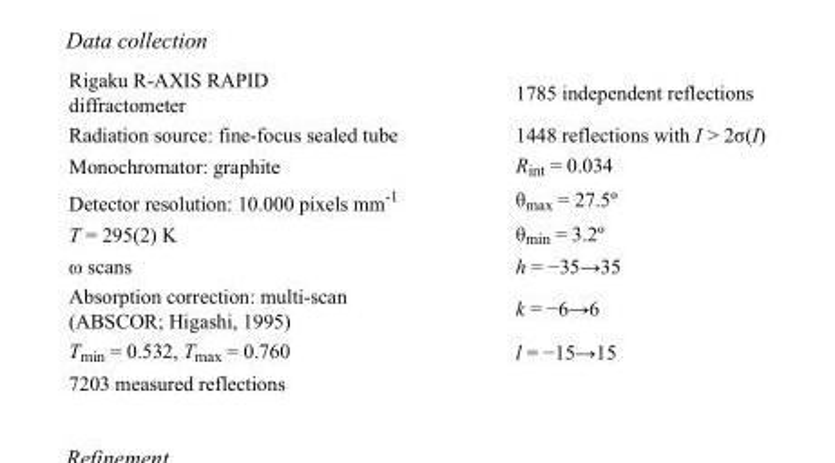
<table><tbody><tr><td>Rigaku R-AXIS RAPID diffractometer</td><td>1785 independent reflections</td></tr><tr><td>Radiation source: fine-focus sealed tube</td><td>1448 reflections with I &gt; 2σ(I)</td></tr><tr><td>Monochromator: graphite</td><td>R<sub>int</sub> = 0.034</td></tr><tr><td>Detector resolution: 10.000 pixels mm<sup>-1</sup></td><td>θ<sub>max</sub> = 27.5º</td></tr><tr><td>T = 295(2) K</td><td>θ<sub>min</sub> = 3.2º</td></tr><tr><td>ω scans</td><td>h = −35→35</td></tr><tr><td>Absorption correction: multi-scan (ABSCOR; Higashi, 1995)</td><td>k = −6→6</td></tr><tr><td>T<sub>min</sub> = 0.532, T<sub>max</sub> = 0.760</td><td>l = −15→15</td></tr><tr><td>7203 measured reflections</td><td></td></tr></tbody></table>